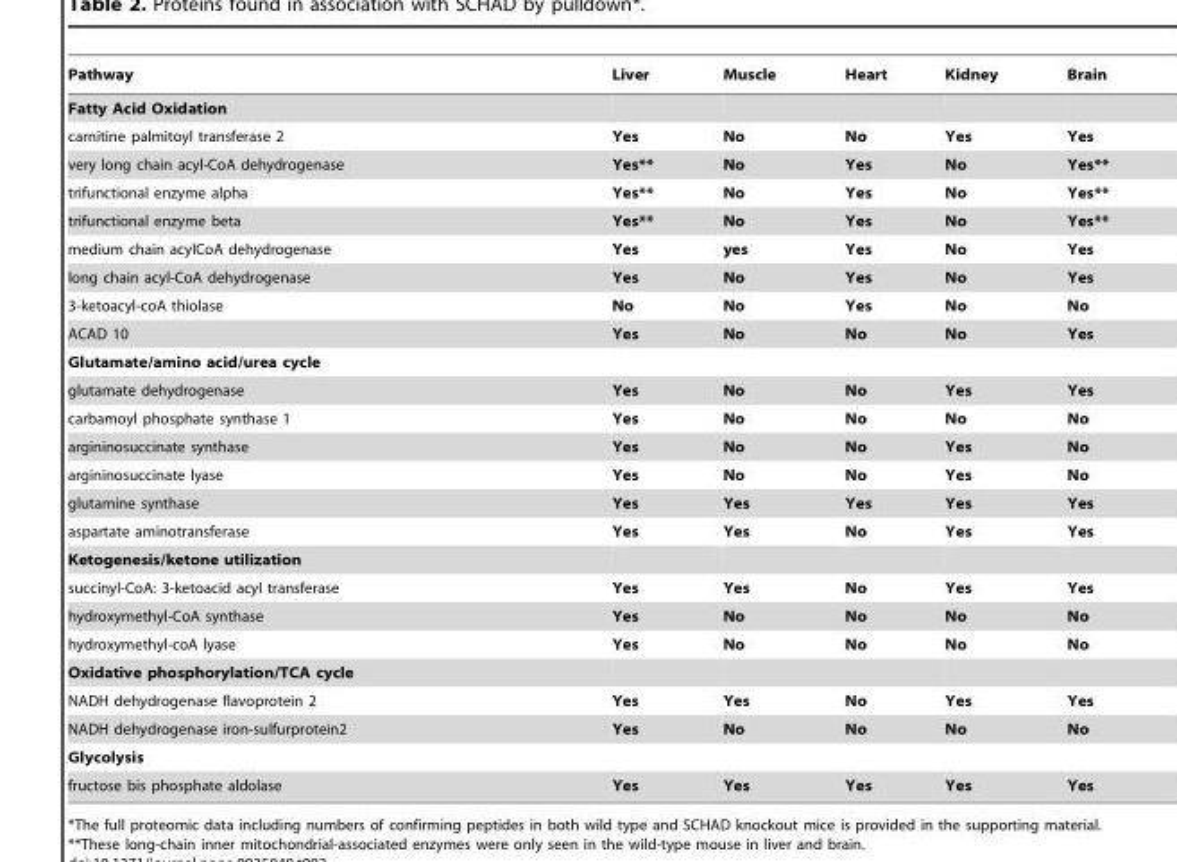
<table><thead><tr><td>Pathway</td><td>Liver</td><td>Muscle</td><td>Heart</td><td>Kidney</td><td>Brain</td></tr></thead><tbody><tr><td colspan="6">Fatty Acid Oxidation</td></tr><tr><td>carnitine palmitoyl transferase 2</td><td>Yes</td><td>No</td><td>No</td><td>Yes</td><td>Yes</td></tr><tr><td>very long chain acyl-CoA dehydrogenase</td><td>Yes**</td><td>No</td><td>Yes</td><td>No</td><td>Yes**</td></tr><tr><td>trifunctional enzyme alpha</td><td>Yes**</td><td>No</td><td>Yes</td><td>No</td><td>Yes**</td></tr><tr><td>trifunctional enzyme beta</td><td>Yes**</td><td>No</td><td>Yes</td><td>No</td><td>Yes**</td></tr><tr><td>medium chain acylCoA dehydrogenase</td><td>Yes</td><td>yes</td><td>Yes</td><td>No</td><td>Yes</td></tr><tr><td>long chain acyl-CoA dehydrogenase</td><td>Yes</td><td>No</td><td>Yes</td><td>No</td><td>Yes</td></tr><tr><td>3-ketoacyl-coA thiolase</td><td>No</td><td>No</td><td>Yes</td><td>No</td><td>No</td></tr><tr><td>ACAD 10</td><td>Yes</td><td>No</td><td>No</td><td>No</td><td>Yes</td></tr><tr><td colspan="6">Glutamate/amino acid/urea cycle</td></tr><tr><td>glutamate dehydrogenase</td><td>Yes</td><td>No</td><td>No</td><td>Yes</td><td>Yes</td></tr><tr><td>carbamoyl phosphate synthase 1</td><td>Yes</td><td>No</td><td>No</td><td>No</td><td>No</td></tr><tr><td>argininosuccinate synthase</td><td>Yes</td><td>No</td><td>No</td><td>Yes</td><td>No</td></tr><tr><td>argininosuccinate lyase</td><td>Yes</td><td>No</td><td>No</td><td>Yes</td><td>No</td></tr><tr><td>glutamine synthase</td><td>Yes</td><td>Yes</td><td>Yes</td><td>Yes</td><td>Yes</td></tr><tr><td>aspartate aminotransferase</td><td>Yes</td><td>Yes</td><td>No</td><td>Yes</td><td>Yes</td></tr><tr><td colspan="6">Ketogenesis/ketone utilization</td></tr><tr><td>succinyl-CoA: 3-ketoacid acyl transferase</td><td>Yes</td><td>Yes</td><td>No</td><td>Yes</td><td>Yes</td></tr><tr><td>hydroxymethyl-CoA synthase</td><td>Yes</td><td>No</td><td>No</td><td>No</td><td>No</td></tr><tr><td>hydroxymethyl-coA lyase</td><td>Yes</td><td>No</td><td>No</td><td>No</td><td>No</td></tr><tr><td colspan="6">Oxidative phosphorylation/TCA cycle</td></tr><tr><td>NADH dehydrogenase flavoprotein 2</td><td>Yes</td><td>Yes</td><td>No</td><td>Yes</td><td>Yes</td></tr><tr><td>NADH dehydrogenase iron-sulfurprotein2</td><td>Yes</td><td>No</td><td>No</td><td>No</td><td>No</td></tr><tr><td colspan="6">Glycolysis</td></tr><tr><td>fructose bis phosphate aldolase</td><td>Yes</td><td>Yes</td><td>Yes</td><td>Yes</td><td>Yes</td></tr></tbody></table>